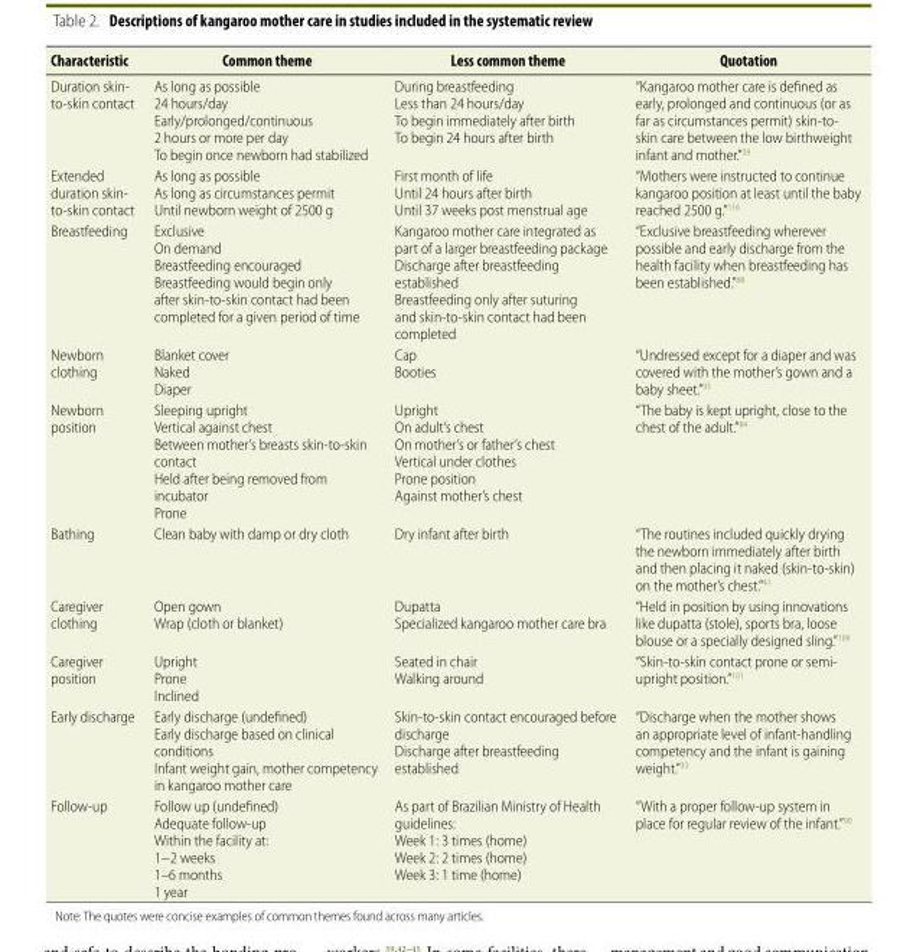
<table><thead><tr><td>Characteristic</td><td>Common theme</td><td>Less common theme</td><td>Quotation</td></tr></thead><tbody><tr><td>Duration skin- to-skin contact</td><td>As long as possible 24 hours/day Early/prolonged/continuous 2 hours or more per day To begin once newborn had stabilized</td><td>During breastfeeding Less than 24 hours/day To begin immediately after birth To begin 24 hours after birth</td><td>“Kangaroo mother care is defined as early, prolonged and continuous (or as far as circumstances permit) skin-to- skin care between the low birthweight infant and mother.”<sup>39</sup></td></tr><tr><td>Extended duration skin- to-skin contact</td><td>As long as possible As long as circumstances permit Until newborn weight of 2500 g</td><td>First month of life Until 24 hours after birth Until 37 weeks post menstrual age</td><td>“Mothers were instructed to continue kangaroo position at least until the baby reached 2500 g.”<sup>116</sup></td></tr><tr><td>Breastfeeding</td><td>Exclusive On demand Breastfeeding encouraged Breastfeeding would begin only after skin-to-skin contact had been completed for a given period of time</td><td>Kangaroo mother care integrated as part of a larger breastfeeding package Discharge after breastfeeding established Breastfeeding only after suturing and skin-to-skin contact had been completed</td><td>“Exclusive breastfeeding wherever possible and early discharge from the health facility when breastfeeding has been established.”<sup>88</sup></td></tr><tr><td>Newborn clothing</td><td>Blanket cover Naked Diaper</td><td>Cap Booties</td><td>“Undressed except for a diaper and was covered with the mother’s gown and a baby sheet.”<sup>93</sup></td></tr><tr><td>Newborn position</td><td>Sleeping upright Vertical against chest Between mother’s breasts skin-to-skin contact Held after being removed from incubator Prone</td><td>Upright On adult’s chest On mother’s or father’s chest Vertical under clothes Prone position Against mother’s chest</td><td>“The baby is kept upright, close to the chest of the adult.”<sup>84</sup></td></tr><tr><td>Bathing</td><td>Clean baby with damp or dry cloth</td><td>Dry infant after birth</td><td>“The routines included quickly drying the newborn immediately after birth and then placing it naked (skin-to-skin) on the mother’s chest.”<sup>41</sup></td></tr><tr><td>Caregiver clothing</td><td>Open gown Wrap (cloth or blanket)</td><td>Dupatta Specialized kangaroo mother care bra</td><td>“Held in position by using innovations like dupatta (stole), sports bra, loose blouse or a specially designed sling.”<sup>109</sup></td></tr><tr><td>Caregiver position</td><td>Upright Prone Inclined</td><td>Seated in chair Walking around</td><td>“Skin-to-skin contact prone or semi- upright position.”<sup>101</sup></td></tr><tr><td>Early discharge</td><td>Early discharge (undefined) Early discharge based on clinical conditions Infant weight gain, mother competency in kangaroo mother care</td><td>Skin-to-skin contact encouraged before discharge Discharge after breastfeeding established</td><td>“Discharge when the mother shows an appropriate level of infant-handling competency and the infant is gaining weight.”<sup>33</sup></td></tr><tr><td>Follow-up</td><td>Follow up (undefined) Adequate follow-up Within the facility at: 1−2 weeks 1–6 months 1 year</td><td>As part of Brazilian Ministry of Health guidelines: Week 1: 3 times (home) Week 2: 2 times (home) Week 3: 1 time (home)</td><td>“With a proper follow-up system in place for regular review of the infant.”<sup>90</sup></td></tr></tbody></table>